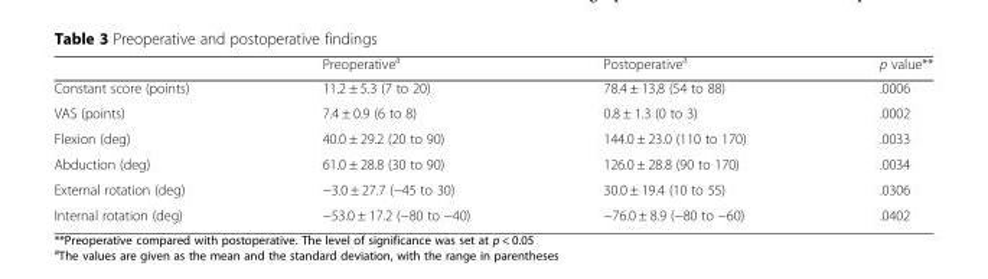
<table><thead><tr><td></td><td>Preoperative<sup>a</sup></td><td>Postoperative<sup>a</sup></td><td>p value**</td></tr></thead><tbody><tr><td>Constant score (points)</td><td>11.2 ± 5.3 (7 to 20)</td><td>78.4 ± 13,8 (54 to 88)</td><td>.0006</td></tr><tr><td>VAS (points)</td><td>7.4 ± 0.9 (6 to 8)</td><td>0.8 ± 1.3 (0 to 3)</td><td>.0002</td></tr><tr><td>Flexion (deg)</td><td>40.0 ± 29.2 (20 to 90)</td><td>144.0 ± 23.0 (110 to 170)</td><td>.0033</td></tr><tr><td>Abduction (deg)</td><td>61.0 ± 28.8 (30 to 90)</td><td>126.0 ± 28.8 (90 to 170)</td><td>.0034</td></tr><tr><td>External rotation (deg)</td><td>−3.0 ± 27.7 (−45 to 30)</td><td>30.0 ± 19.4 (10 to 55)</td><td>.0306</td></tr><tr><td>Internal rotation (deg)</td><td>−53.0 ± 17.2 (−80 to −40)</td><td>−76.0 ± 8.9 (−80 to −60)</td><td>.0402</td></tr></tbody></table>